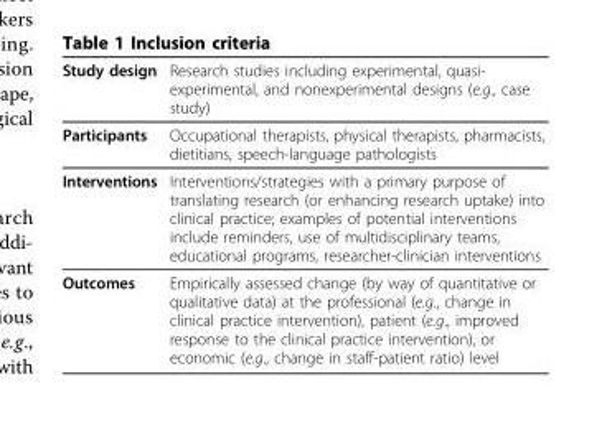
<table><thead><tr><td>Study design</td><td>Research studies including experimental, quasi- experimental, and nonexperimental designs (e.g., case study)</td></tr></thead><tbody><tr><td>Participants</td><td>Occupational therapists, physical therapists, pharmacists, dietitians, speech-language pathologists</td></tr><tr><td>Interventions</td><td>Interventions/strategies with a primary purpose of translating research (or enhancing research uptake) into clinical practice; examples of potential interventions include reminders, use of multidisciplinary teams, educational programs, researcher-clinician interventions</td></tr><tr><td>Outcomes</td><td>Empirically assessed change (by way of quantitative or qualitative data) at the professional (e.g., change in clinical practice intervention), patient (e.g., improved response to the clinical practice intervention), or economic (e.g., change in staff-patient ratio) level</td></tr></tbody></table>